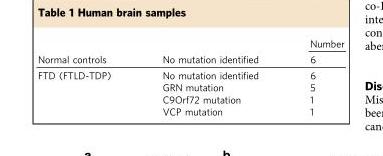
<table><thead><tr><td></td><td></td><td>Number</td></tr></thead><tbody><tr><td>Normal controls</td><td>No mutation identified</td><td>6</td></tr><tr><td rowspan="4">FTD (FTLD-TDP)</td><td>No mutation identified</td><td>6</td></tr><tr><td>GRN mutation</td><td>5</td></tr><tr><td>C9Orf72 mutation</td><td>1</td></tr><tr><td>VCP mutation</td><td>1</td></tr></tbody></table>